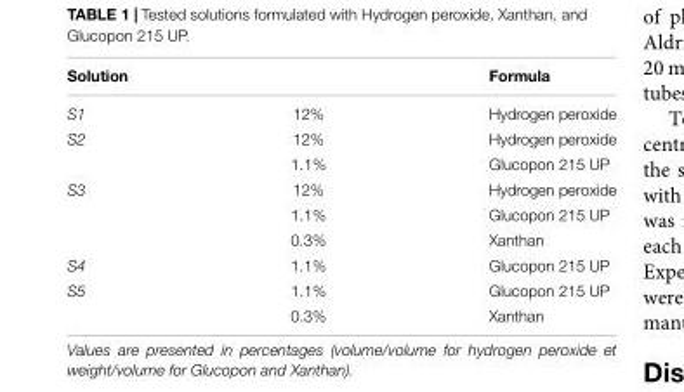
<table><thead><tr><td>Solution</td><td></td><td>Formula</td></tr></thead><tbody><tr><td>S1</td><td>12%</td><td>Hydrogen peroxide</td></tr><tr><td rowspan="2">S2</td><td>12%</td><td>Hydrogen peroxide</td></tr><tr><td>1.1%</td><td>Glucopon 215 UP</td></tr><tr><td rowspan="3">S3</td><td>12%</td><td>Hydrogen peroxide</td></tr><tr><td>1.1%</td><td>Glucopon 215 UP</td></tr><tr><td>0.3%</td><td>Xanthan</td></tr><tr><td>S4</td><td>1.1%</td><td>Glucopon 215 UP</td></tr><tr><td rowspan="2">S5</td><td>1.1%</td><td>Glucopon 215 UP</td></tr><tr><td>0.3%</td><td>Xanthan</td></tr></tbody></table>